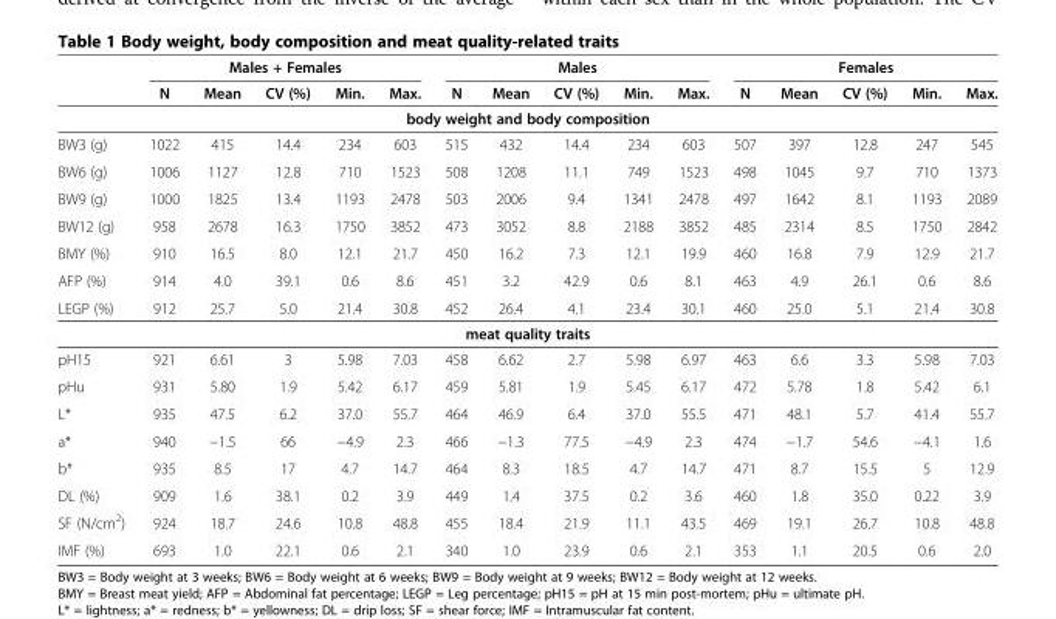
<table><thead><tr><td rowspan="2"></td><td colspan="5">Males + Females</td><td colspan="5">Males</td><td colspan="5">Females</td></tr><tr><td>N</td><td>Mean</td><td>CV (%)</td><td>Min.</td><td>Max.</td><td>N</td><td>Mean</td><td>CV (%)</td><td>Min.</td><td>Max.</td><td>N</td><td>Mean</td><td>CV (%)</td><td>Min.</td><td>Max.</td></tr></thead><tbody><tr><td colspan="16">body weight and body composition</td></tr><tr><td>BW3 (g)</td><td>1022</td><td>415</td><td>14.4</td><td>234</td><td>603</td><td>515</td><td>432</td><td>14.4</td><td>234</td><td>603</td><td>507</td><td>397</td><td>12.8</td><td>247</td><td>545</td></tr><tr><td>BW6 (g)</td><td>1006</td><td>1127</td><td>12.8</td><td>710</td><td>1523</td><td>508</td><td>1208</td><td>11.1</td><td>749</td><td>1523</td><td>498</td><td>1045</td><td>9.7</td><td>710</td><td>1373</td></tr><tr><td>BW9 (g)</td><td>1000</td><td>1825</td><td>13.4</td><td>1193</td><td>2478</td><td>503</td><td>2006</td><td>9.4</td><td>1341</td><td>2478</td><td>497</td><td>1642</td><td>8.1</td><td>1193</td><td>2089</td></tr><tr><td>BW12 (g)</td><td>958</td><td>2678</td><td>16.3</td><td>1750</td><td>3852</td><td>473</td><td>3052</td><td>8.8</td><td>2188</td><td>3852</td><td>485</td><td>2314</td><td>8.5</td><td>1750</td><td>2842</td></tr><tr><td>BMY (%)</td><td>910</td><td>16.5</td><td>8.0</td><td>12.1</td><td>21.7</td><td>450</td><td>16.2</td><td>7.3</td><td>12.1</td><td>19.9</td><td>460</td><td>16.8</td><td>7.9</td><td>12.9</td><td>21.7</td></tr><tr><td>AFP (%)</td><td>914</td><td>4.0</td><td>39.1</td><td>0.6</td><td>8.6</td><td>451</td><td>3.2</td><td>42.9</td><td>0.6</td><td>8.1</td><td>463</td><td>4.9</td><td>26.1</td><td>0.6</td><td>8.6</td></tr><tr><td>LEGP (%)</td><td>912</td><td>25.7</td><td>5.0</td><td>21.4</td><td>30.8</td><td>452</td><td>26.4</td><td>4.1</td><td>23.4</td><td>30.1</td><td>460</td><td>25.0</td><td>5.1</td><td>21.4</td><td>30.8</td></tr><tr><td colspan="16">meat quality traits</td></tr><tr><td>pH15</td><td>921</td><td>6.61</td><td>3</td><td>5.98</td><td>7.03</td><td>458</td><td>6.62</td><td>2.7</td><td>5.98</td><td>6.97</td><td>463</td><td>6.6</td><td>3.3</td><td>5.98</td><td>7.03</td></tr><tr><td>pHu</td><td>931</td><td>5.80</td><td>1.9</td><td>5.42</td><td>6.17</td><td>459</td><td>5.81</td><td>1.9</td><td>5.45</td><td>6.17</td><td>472</td><td>5.78</td><td>1.8</td><td>5.42</td><td>6.1</td></tr><tr><td>L*</td><td>935</td><td>47.5</td><td>6.2</td><td>37.0</td><td>55.7</td><td>464</td><td>46.9</td><td>6.4</td><td>37.0</td><td>55.5</td><td>471</td><td>48.1</td><td>5.7</td><td>41.4</td><td>55.7</td></tr><tr><td>a*</td><td>940</td><td>−1.5</td><td>66</td><td>−4.9</td><td>2.3</td><td>466</td><td>−1.3</td><td>77.5</td><td>−4.9</td><td>2.3</td><td>474</td><td>−1.7</td><td>54.6</td><td>−4.1</td><td>1.6</td></tr><tr><td>b*</td><td>935</td><td>8.5</td><td>17</td><td>4.7</td><td>14.7</td><td>464</td><td>8.3</td><td>18.5</td><td>4.7</td><td>14.7</td><td>471</td><td>8.7</td><td>15.5</td><td>5</td><td>12.9</td></tr><tr><td>DL (%)</td><td>909</td><td>1.6</td><td>38.1</td><td>0.2</td><td>3.9</td><td>449</td><td>1.4</td><td>37.5</td><td>0.2</td><td>3.6</td><td>460</td><td>1.8</td><td>35.0</td><td>0.22</td><td>3.9</td></tr><tr><td>SF (N/cm<sup>2</sup>)</td><td>924</td><td>18.7</td><td>24.6</td><td>10.8</td><td>48.8</td><td>455</td><td>18.4</td><td>21.9</td><td>11.1</td><td>43.5</td><td>469</td><td>19.1</td><td>26.7</td><td>10.8</td><td>48.8</td></tr><tr><td>IMF (%)</td><td>693</td><td>1.0</td><td>22.1</td><td>0.6</td><td>2.1</td><td>340</td><td>1.0</td><td>23.9</td><td>0.6</td><td>2.1</td><td>353</td><td>1.1</td><td>20.5</td><td>0.6</td><td>2.0</td></tr></tbody></table>